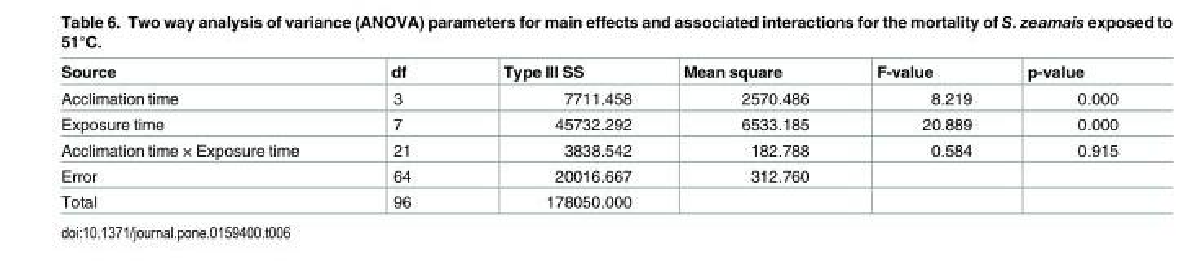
<table><thead><tr><td>Source</td><td>df</td><td>Type III SS</td><td>Mean square</td><td>F-value</td><td>p-value</td></tr></thead><tbody><tr><td>Acclimation time</td><td>3</td><td>7711.458</td><td>2570.486</td><td>8.219</td><td>0.000</td></tr><tr><td>Exposure time</td><td>7</td><td>45732.292</td><td>6533.185</td><td>20.889</td><td>0.000</td></tr><tr><td>Acclimation time × Exposure time</td><td>21</td><td>3838.542</td><td>182.788</td><td>0.584</td><td>0.915</td></tr><tr><td>Error</td><td>64</td><td>20016.667</td><td>312.760</td><td></td><td></td></tr><tr><td>Total</td><td>96</td><td>178050.000</td><td></td><td></td><td></td></tr></tbody></table>